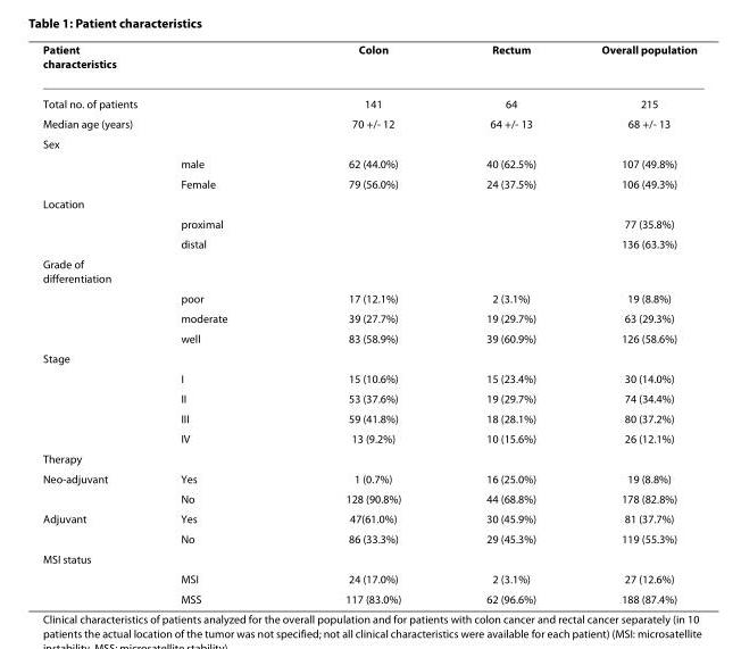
<table><thead><tr><td>Patient characteristics</td><td></td><td>Colon</td><td>Rectum</td><td>Overall population</td></tr></thead><tbody><tr><td>Total no. of patients</td><td></td><td>141</td><td>64</td><td>215</td></tr><tr><td>Median age (years)</td><td></td><td>70 +/- 12</td><td>64 +/- 13</td><td>68 +/- 13</td></tr><tr><td colspan="5">Sex</td></tr><tr><td></td><td>male</td><td>62 (44.0%)</td><td>40 (62.5%)</td><td>107 (49.8%)</td></tr><tr><td></td><td>Female</td><td>79 (56.0%)</td><td>24 (37.5%)</td><td>106 (49.3%)</td></tr><tr><td colspan="5">Location</td></tr><tr><td></td><td>proximal</td><td></td><td></td><td>77 (35.8%)</td></tr><tr><td></td><td>distal</td><td></td><td></td><td>136 (63.3%)</td></tr><tr><td colspan="5">Grade of differentiation</td></tr><tr><td></td><td>poor</td><td>17 (12.1%)</td><td>2 (3.1%)</td><td>19 (8.8%)</td></tr><tr><td></td><td>moderate</td><td>39 (27.7%)</td><td>19 (29.7%)</td><td>63 (29.3%)</td></tr><tr><td></td><td>well</td><td>83 (58.9%)</td><td>39 (60.9%)</td><td>126 (58.6%)</td></tr><tr><td colspan="5">Stage</td></tr><tr><td></td><td>I</td><td>15 (10.6%)</td><td>15 (23.4%)</td><td>30 (14.0%)</td></tr><tr><td></td><td>II</td><td>53 (37.6%)</td><td>19 (29.7%)</td><td>74 (34.4%)</td></tr><tr><td></td><td>III</td><td>59 (41.8%)</td><td>18 (28.1%)</td><td>80 (37.2%)</td></tr><tr><td></td><td>IV</td><td>13 (9.2%)</td><td>10 (15.6%)</td><td>26 (12.1%)</td></tr><tr><td colspan="5">Therapy</td></tr><tr><td rowspan="2">Neo-adjuvant</td><td>Yes</td><td>1 (0.7%)</td><td>16 (25.0%)</td><td>19 (8.8%)</td></tr><tr><td>No</td><td>128 (90.8%)</td><td>44 (68.8%)</td><td>178 (82.8%)</td></tr><tr><td rowspan="2">Adjuvant</td><td>Yes</td><td>47(61.0%)</td><td>30 (45.9%)</td><td>81 (37.7%)</td></tr><tr><td>No</td><td>86 (33.3%)</td><td>29 (45.3%)</td><td>119 (55.3%)</td></tr><tr><td colspan="5">MSI status</td></tr><tr><td></td><td>MSI</td><td>24 (17.0%)</td><td>2 (3.1%)</td><td>27 (12.6%)</td></tr><tr><td></td><td>MSS</td><td>117 (83.0%)</td><td>62 (96.6%)</td><td>188 (87.4%)</td></tr></tbody></table>